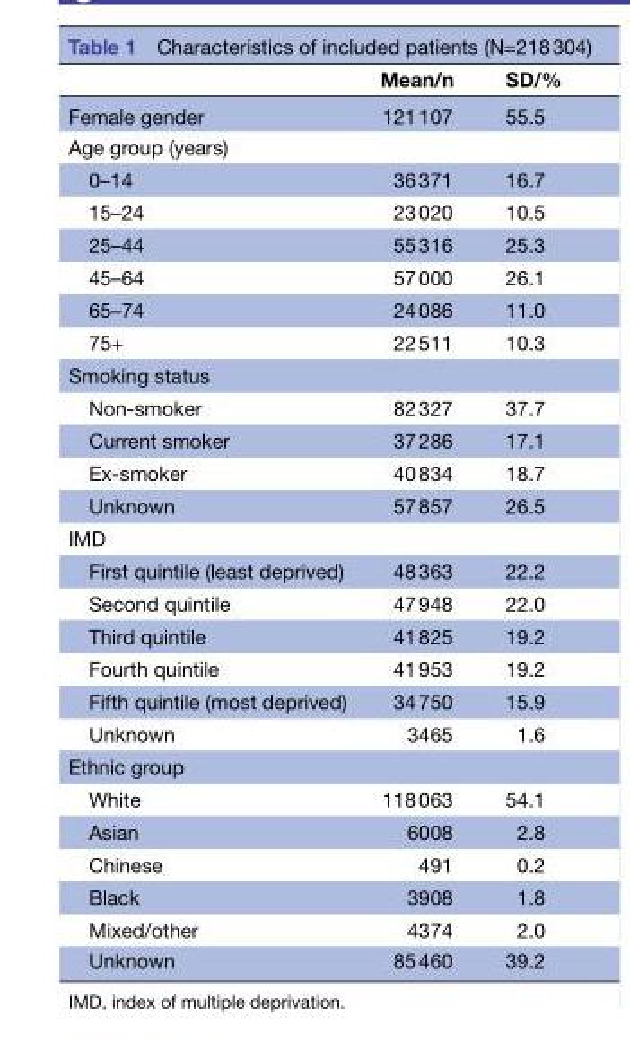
<table><thead><tr><td></td><td>Mean/n</td><td>SD/%</td></tr></thead><tbody><tr><td>Female gender</td><td>121 107</td><td>55.5</td></tr><tr><td colspan="3">Age group (years)</td></tr><tr><td>0–14</td><td>36 371</td><td>16.7</td></tr><tr><td>15–24</td><td>23 020</td><td>10.5</td></tr><tr><td>25–44</td><td>55 316</td><td>25.3</td></tr><tr><td>45–64</td><td>57 000</td><td>26.1</td></tr><tr><td>65–74</td><td>24 086</td><td>11.0</td></tr><tr><td>75+</td><td>22 511</td><td>10.3</td></tr><tr><td colspan="3">Smoking status</td></tr><tr><td>Non-smoker</td><td>82 327</td><td>37.7</td></tr><tr><td>Current smoker</td><td>37 286</td><td>17.1</td></tr><tr><td>Ex-smoker</td><td>40 834</td><td>18.7</td></tr><tr><td>Unknown</td><td>57 857</td><td>26.5</td></tr><tr><td colspan="3">IMD</td></tr><tr><td>First quintile (least deprived)</td><td>48 363</td><td>22.2</td></tr><tr><td>Second quintile</td><td>47 948</td><td>22.0</td></tr><tr><td>Third quintile</td><td>41 825</td><td>19.2</td></tr><tr><td>Fourth quintile</td><td>41 953</td><td>19.2</td></tr><tr><td>Fifth quintile (most deprived)</td><td>34 750</td><td>15.9</td></tr><tr><td>Unknown</td><td>3465</td><td>1.6</td></tr><tr><td colspan="3">Ethnic group</td></tr><tr><td>White</td><td>118 063</td><td>54.1</td></tr><tr><td>Asian</td><td>6008</td><td>2.8</td></tr><tr><td>Chinese</td><td>491</td><td>0.2</td></tr><tr><td>Black</td><td>3908</td><td>1.8</td></tr><tr><td>Mixed/other</td><td>4374</td><td>2.0</td></tr><tr><td>Unknown</td><td>85 460</td><td>39.2</td></tr></tbody></table>